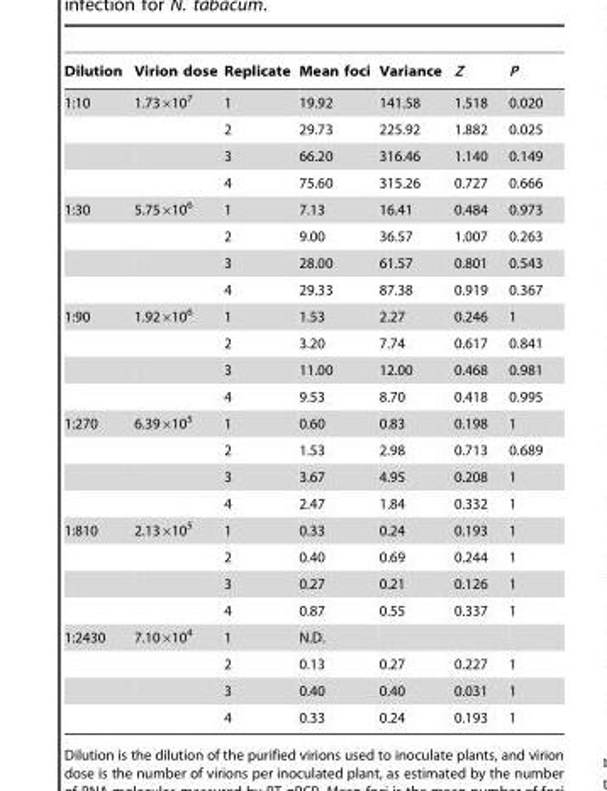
<table><thead><tr><td>Dilution</td><td>Virion dose</td><td>Replicate</td><td>Mean foci</td><td>Variance</td><td>Z</td><td>P</td></tr></thead><tbody><tr><td rowspan="4">1:10</td><td>1.73×10<sup>7</sup></td><td>1</td><td>19.92</td><td>141.58</td><td>1.518</td><td>0.020</td></tr><tr><td></td><td>2</td><td>29.73</td><td>225.92</td><td>1.882</td><td>0.025</td></tr><tr><td></td><td>3</td><td>66.20</td><td>316.46</td><td>1.140</td><td>0.149</td></tr><tr><td></td><td>4</td><td>75.60</td><td>315.26</td><td>0.727</td><td>0.666</td></tr><tr><td rowspan="4">1:30</td><td>5.75×10<sup>6</sup></td><td>1</td><td>7.13</td><td>16.41</td><td>0.484</td><td>0.973</td></tr><tr><td></td><td>2</td><td>9.00</td><td>36.57</td><td>1.007</td><td>0.263</td></tr><tr><td></td><td>3</td><td>28.00</td><td>61.57</td><td>0.801</td><td>0.543</td></tr><tr><td></td><td>4</td><td>29.33</td><td>87.38</td><td>0.919</td><td>0.367</td></tr><tr><td rowspan="4">1:90</td><td>1.92×10<sup>6</sup></td><td>1</td><td>1.53</td><td>2.27</td><td>0.246</td><td>1</td></tr><tr><td></td><td>2</td><td>3.20</td><td>7.74</td><td>0.617</td><td>0.841</td></tr><tr><td></td><td>3</td><td>11.00</td><td>12.00</td><td>0.468</td><td>0.981</td></tr><tr><td></td><td>4</td><td>9.53</td><td>8.70</td><td>0.418</td><td>0.995</td></tr><tr><td rowspan="4">1:270</td><td>6.39×10<sup>5</sup></td><td>1</td><td>0.60</td><td>0.83</td><td>0.198</td><td>1</td></tr><tr><td></td><td>2</td><td>1.53</td><td>2.98</td><td>0.713</td><td>0.689</td></tr><tr><td></td><td>3</td><td>3.67</td><td>4.95</td><td>0.208</td><td>1</td></tr><tr><td></td><td>4</td><td>2.47</td><td>1.84</td><td>0.332</td><td>1</td></tr><tr><td rowspan="4">1:810</td><td>2.13×10<sup>5</sup></td><td>1</td><td>0.33</td><td>0.24</td><td>0.193</td><td>1</td></tr><tr><td></td><td>2</td><td>0.40</td><td>0.69</td><td>0.244</td><td>1</td></tr><tr><td></td><td>3</td><td>0.27</td><td>0.21</td><td>0.126</td><td>1</td></tr><tr><td></td><td>4</td><td>0.87</td><td>0.55</td><td>0.337</td><td>1</td></tr><tr><td rowspan="4">1:2430</td><td>7.10×10<sup>4</sup></td><td>1</td><td>N.D.</td><td></td><td></td><td></td></tr><tr><td></td><td>2</td><td>0.13</td><td>0.27</td><td>0.227</td><td>1</td></tr><tr><td></td><td>3</td><td>0.40</td><td>0.40</td><td>0.031</td><td>1</td></tr><tr><td></td><td>4</td><td>0.33</td><td>0.24</td><td>0.193</td><td>1</td></tr></tbody></table>